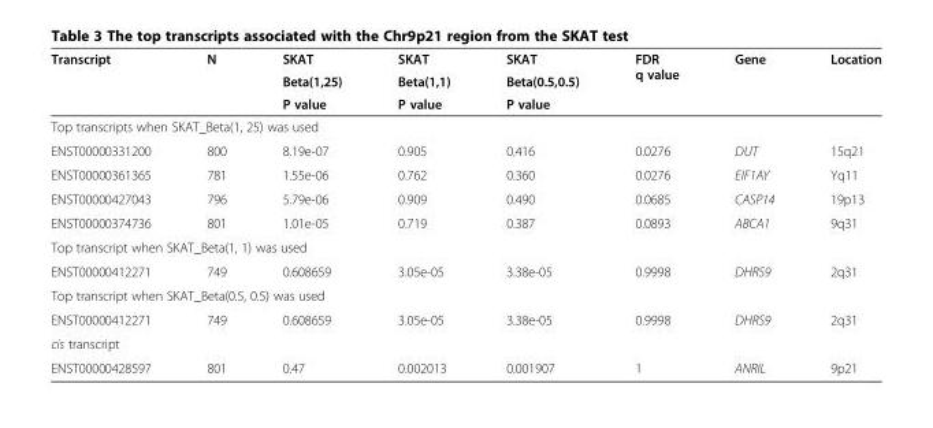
<table><thead><tr><td rowspan="3">Transcript</td><td rowspan="3">N</td><td rowspan="3">SKAT Beta(1,25) P value</td><td rowspan="3">SKAT Beta(1,1) P value</td><td rowspan="3">SKAT Beta(0.5,0.5) P value</td><td rowspan="3">FDR q value</td><td rowspan="3">Gene</td><td rowspan="3">Location</td></tr><tr></tr><tr></tr></thead><tbody><tr><td colspan="8">Top transcripts when SKAT_Beta(1, 25) was used</td></tr><tr><td>ENST00000331200</td><td>800</td><td>8.19e-07</td><td>0.905</td><td>0.416</td><td>0.0276</td><td>DUT</td><td>15q21</td></tr><tr><td>ENST00000361365</td><td>781</td><td>1.55e-06</td><td>0.762</td><td>0.360</td><td>0.0276</td><td>EIF1AY</td><td>Yq11</td></tr><tr><td>ENST00000427043</td><td>796</td><td>5.79e-06</td><td>0.909</td><td>0.490</td><td>0.0685</td><td>CASP14</td><td>19p13</td></tr><tr><td>ENST00000374736</td><td>801</td><td>1.01e-05</td><td>0.719</td><td>0.387</td><td>0.0893</td><td>ABCA1</td><td>9q31</td></tr><tr><td colspan="8">Top transcript when SKAT_Beta(1, 1) was used</td></tr><tr><td>ENST00000412271</td><td>749</td><td>0.608659</td><td>3.05e-05</td><td>3.38e-05</td><td>0.9998</td><td>DHRS9</td><td>2q31</td></tr><tr><td colspan="8">Top transcript when SKAT_Beta(0.5, 0.5) was used</td></tr><tr><td>ENST00000412271</td><td>749</td><td>0.608659</td><td>3.05e-05</td><td>3.38e-05</td><td>0.9998</td><td>DHRS9</td><td>2q31</td></tr><tr><td colspan="8">cis transcript</td></tr><tr><td>ENST00000428597</td><td>801</td><td>0.47</td><td>0.002013</td><td>0.001907</td><td>1</td><td>ANRIL</td><td>9p21</td></tr></tbody></table>